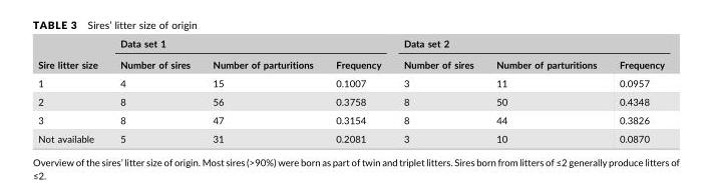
<table><thead><tr><td rowspan="2">Sire litter size</td><td colspan="3">Data set 1</td><td colspan="3">Data set 2</td></tr><tr><td>Number of sires</td><td>Number of parturitions</td><td>Frequency</td><td>Number of sires</td><td>Number of parturitions</td><td>Frequency</td></tr></thead><tbody><tr><td>1</td><td>4</td><td>15</td><td>0.1007</td><td>3</td><td>11</td><td>0.0957</td></tr><tr><td>2</td><td>8</td><td>56</td><td>0.3758</td><td>8</td><td>50</td><td>0.4348</td></tr><tr><td>3</td><td>8</td><td>47</td><td>0.3154</td><td>8</td><td>44</td><td>0.3826</td></tr><tr><td>Not available</td><td>5</td><td>31</td><td>0.2081</td><td>3</td><td>10</td><td>0.0870</td></tr></tbody></table>